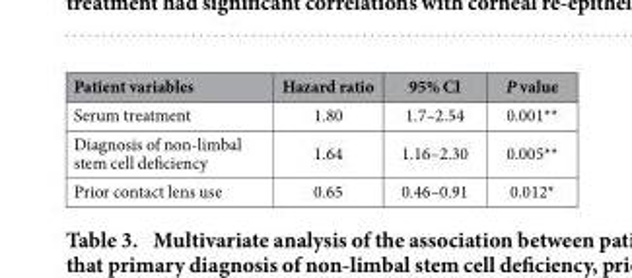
<table><thead><tr><td>Patient variables</td><td>Hazard ratio</td><td>95% CI</td><td>P value</td></tr></thead><tbody><tr><td>Serum treatment</td><td>1.80</td><td>1.7–2.54</td><td>0.001**</td></tr><tr><td>Diagnosis of non-limbal stem cell deficiency</td><td>1.64</td><td>1.16–2.30</td><td>0.005**</td></tr><tr><td>Prior contact lens use</td><td>0.65</td><td>0.46–0.91</td><td>0.012*</td></tr></tbody></table>